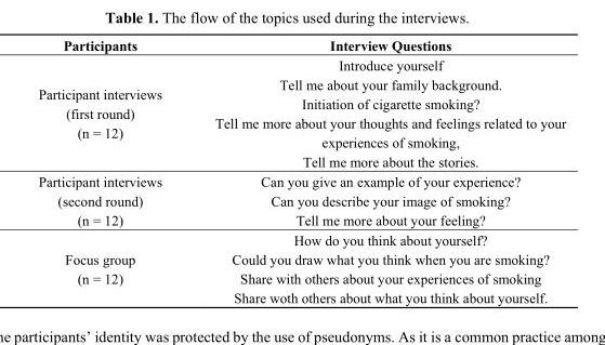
<table><thead><tr><td>Participants</td><td>Interview Questions</td></tr></thead><tbody><tr><td>Participant interviews (first round) (n = 12)</td><td>Introduce yourself Tell me about your family background. Initiation of cigarette smoking? Tell me more about your thoughts and feelings related to your experiences of smoking, Tell me more about the stories.</td></tr><tr><td>Participant interviews (second round) (n = 12)</td><td>Can you give an example of your experience? Can you describe your image of smoking? Tell me more about your feeling?</td></tr><tr><td>Focus group (n = 12)</td><td>How do you think about yourself? Could you draw what you think when you are smoking? Share with others about your experiences of smoking Share woth others about what you think about yourself.</td></tr></tbody></table>